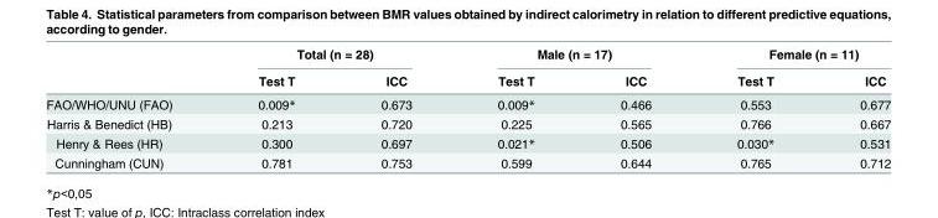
<table><thead><tr><td rowspan="2"></td><td colspan="2">Total (n = 28)</td><td colspan="2">Male (n = 17)</td><td colspan="2">Female (n = 11)</td></tr><tr><td>Test T</td><td>ICC</td><td>Test T</td><td>ICC</td><td>Test T</td><td>ICC</td></tr></thead><tbody><tr><td>FAO/WHO/UNU (FAO)</td><td>0.009*</td><td>0.673</td><td>0.009*</td><td>0.466</td><td>0.553</td><td>0.677</td></tr><tr><td>Harris &amp; Benedict (HB)</td><td>0.213</td><td>0.720</td><td>0.225</td><td>0.565</td><td>0.766</td><td>0.667</td></tr><tr><td>Henry &amp; Rees (HR)</td><td>0.300</td><td>0.697</td><td>0.021*</td><td>0.506</td><td>0.030*</td><td>0.531</td></tr><tr><td>Cunningham (CUN)</td><td>0.781</td><td>0.753</td><td>0.599</td><td>0.644</td><td>0.765</td><td>0.712</td></tr></tbody></table>